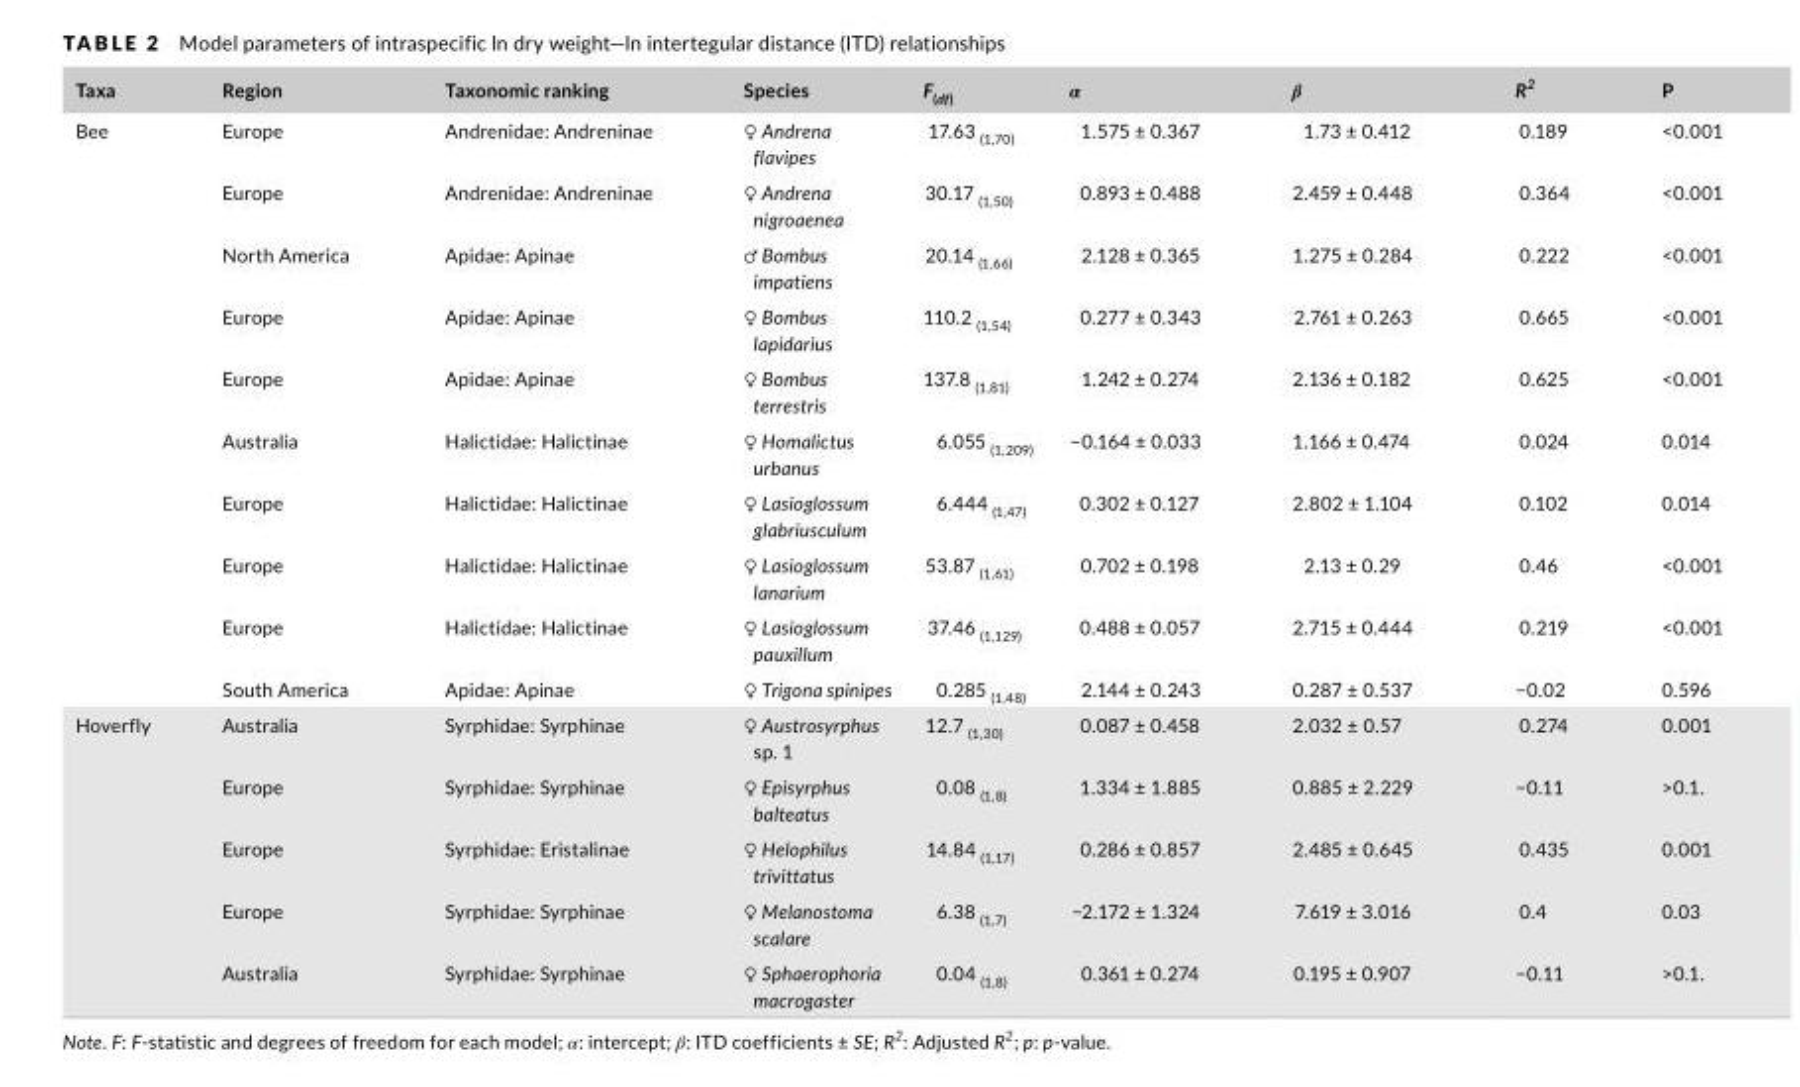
<table><thead><tr><td>Taxa</td><td>Region</td><td>Taxonomic ranking</td><td>Species</td><td>F<sub>(df)</sub></td><td>α</td><td>β</td><td>R<sup>2</sup></td><td>P</td></tr></thead><tbody><tr><td rowspan="10">Bee</td><td>Europe</td><td>Andrenidae: Andreninae</td><td>♀ Andrena flavipes</td><td>17.63 <sub>(1,70)</sub></td><td>1.575 ± 0.367</td><td>1.73 ± 0.412</td><td>0.189</td><td>&lt;0.001</td></tr><tr><td>Europe</td><td>Andrenidae: Andreninae</td><td>♀ Andrena nigroaenea</td><td>30.17 <sub>(1,50)</sub></td><td>0.893 ± 0.488</td><td>2.459 ± 0.448</td><td>0.364</td><td>&lt;0.001</td></tr><tr><td>North America</td><td>Apidae: Apinae</td><td>♂ Bombus impatiens</td><td>20.14 <sub>(1,66)</sub></td><td>2.128 ± 0.365</td><td>1.275 ± 0.284</td><td>0.222</td><td>&lt;0.001</td></tr><tr><td>Europe</td><td>Apidae: Apinae</td><td>♀ Bombus lapidarius</td><td>110.2 <sub>(1,54)</sub></td><td>0.277 ± 0.343</td><td>2.761 ± 0.263</td><td>0.665</td><td>&lt;0.001</td></tr><tr><td>Europe</td><td>Apidae: Apinae</td><td>♀ Bombus terrestris</td><td>137.8 <sub>(1,81)</sub></td><td>1.242 ± 0.274</td><td>2.136 ± 0.182</td><td>0.625</td><td>&lt;0.001</td></tr><tr><td>Australia</td><td>Halictidae: Halictinae</td><td>♀ Homalictus urbanus</td><td>6.055 <sub>(1,209)</sub></td><td>−0.164 ± 0.033</td><td>1.166 ± 0.474</td><td>0.024</td><td>0.014</td></tr><tr><td>Europe</td><td>Halictidae: Halictinae</td><td>♀ Lasioglossum glabriusculum</td><td>6.444 <sub>(1,47)</sub></td><td>0.302 ± 0.127</td><td>2.802 ± 1.104</td><td>0.102</td><td>0.014</td></tr><tr><td>Europe</td><td>Halictidae: Halictinae</td><td>♀ Lasioglossum lanarium</td><td>53.87 <sub>(1,61)</sub></td><td>0.702 ± 0.198</td><td>2.13 ± 0.29</td><td>0.46</td><td>&lt;0.001</td></tr><tr><td>Europe</td><td>Halictidae: Halictinae</td><td>♀ Lasioglossum pauxillum</td><td>37.46 <sub>(1,129)</sub></td><td>0.488 ± 0.057</td><td>2.715 ± 0.444</td><td>0.219</td><td>&lt;0.001</td></tr><tr><td>South America</td><td>Apidae: Apinae</td><td>♀ Trigona spinipes</td><td>0.285 <sub>(1,48)</sub></td><td>2.144 ± 0.243</td><td>0.287 ± 0.537</td><td>−0.02</td><td>0.596</td></tr><tr><td rowspan="5">Hoverfly</td><td>Australia</td><td>Syrphidae: Syrphinae</td><td>♀ Austrosyrphus sp. 1</td><td>12.7 <sub>(1,30)</sub></td><td>0.087 ± 0.458</td><td>2.032 ± 0.57</td><td>0.274</td><td>0.001</td></tr><tr><td>Europe</td><td>Syrphidae: Syrphinae</td><td>♀ Episyrphus balteatus</td><td>0.08 <sub>(1,8)</sub></td><td>1.334 ± 1.885</td><td>0.885 ± 2.229</td><td>−0.11</td><td>&gt;0.1.</td></tr><tr><td>Europe</td><td>Syrphidae: Eristalinae</td><td>♀ Helophilus trivittatus</td><td>14.84 <sub>(1,17)</sub></td><td>0.286 ± 0.857</td><td>2.485 ± 0.645</td><td>0.435</td><td>0.001</td></tr><tr><td>Europe</td><td>Syrphidae: Syrphinae</td><td>♀ Melanostoma scalare</td><td>6.38 <sub>(1,7)</sub></td><td>−2.172 ± 1.324</td><td>7.619 ± 3.016</td><td>0.4</td><td>0.03</td></tr><tr><td>Australia</td><td>Syrphidae: Syrphinae</td><td>♀ Sphaerophoria macrogaster</td><td>0.04 <sub>(1,8)</sub></td><td>0.361 ± 0.274</td><td>0.195 ± 0.907</td><td>−0.11</td><td>&gt;0.1.</td></tr></tbody></table>